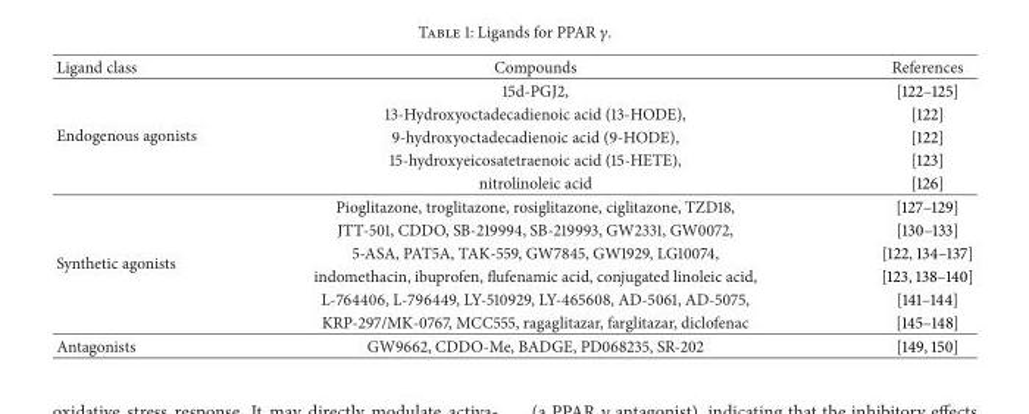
<table><thead><tr><td>Ligand class</td><td>Compounds</td><td>References</td></tr></thead><tbody><tr><td rowspan="5">Endogenous agonists</td><td>15d-PGJ2,</td><td>[122–125]</td></tr><tr><td>13-Hydroxyoctadecadienoic acid (13-HODE),</td><td>[122]</td></tr><tr><td>9-hydroxyoctadecadienoic acid (9-HODE),</td><td>[122]</td></tr><tr><td>15-hydroxyeicosatetraenoic acid (15-HETE),</td><td>[123]</td></tr><tr><td>nitrolinoleic acid</td><td>[126]</td></tr><tr><td rowspan="6">Synthetic agonists</td><td>Pioglitazone, troglitazone, rosiglitazone, ciglitazone, TZD18,</td><td>[127–129]</td></tr><tr><td>JTT-501, CDDO, SB-219994, SB-219993, GW2331, GW0072,</td><td>[130–133]</td></tr><tr><td>5-ASA, PAT5A, TAK-559, GW7845, GW1929, LG10074,</td><td>[122, 134–137]</td></tr><tr><td>indomethacin, ibuprofen, flufenamic acid, conjugated linoleic acid,</td><td>[123, 138–140]</td></tr><tr><td>L-764406, L-796449, LY-510929, LY-465608, AD-5061, AD-5075,</td><td>[141–144]</td></tr><tr><td>KRP-297/MK-0767, MCC555, ragaglitazar, farglitazar, diclofenac</td><td>[145–148]</td></tr><tr><td>Antagonists</td><td>GW9662, CDDO-Me, BADGE, PD068235, SR-202</td><td>[149, 150]</td></tr></tbody></table>